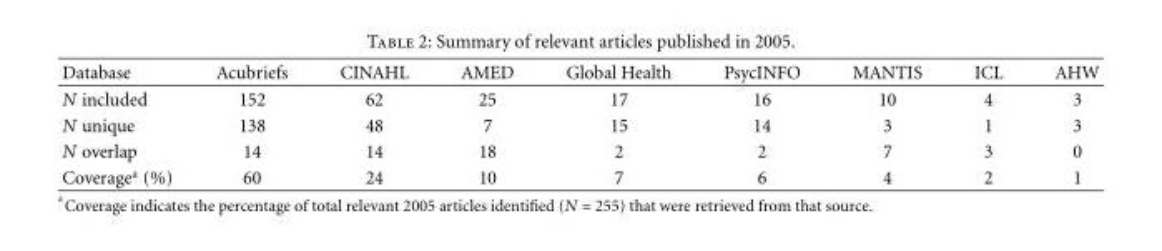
<table><thead><tr><td>Database</td><td>Acubriefs</td><td>CINAHL</td><td>AMED</td><td>Global Health</td><td>PsycINFO</td><td>MANTIS</td><td>ICL</td><td>AHW</td></tr></thead><tbody><tr><td>N included</td><td>152</td><td>62</td><td>25</td><td>17</td><td>16</td><td>10</td><td>4</td><td>3</td></tr><tr><td>N unique</td><td>138</td><td>48</td><td>7</td><td>15</td><td>14</td><td>3</td><td>1</td><td>3</td></tr><tr><td>N overlap</td><td>14</td><td>14</td><td>18</td><td>2</td><td>2</td><td>7</td><td>3</td><td>0</td></tr><tr><td>Coverage<sup>a</sup> (%)</td><td>60</td><td>24</td><td>10</td><td>7</td><td>6</td><td>4</td><td>2</td><td>1</td></tr></tbody></table>